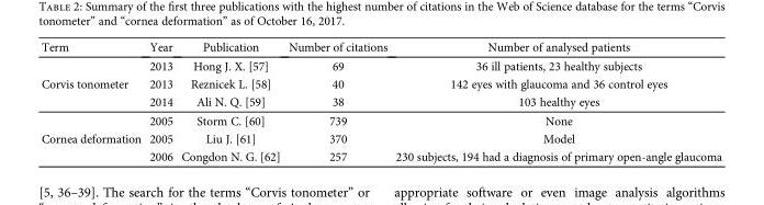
<table><thead><tr><td>Term</td><td>Year</td><td>Publication</td><td>Number of citations</td><td>Number of analysed patients</td></tr></thead><tbody><tr><td rowspan="3">Corvis tonometer</td><td>2013</td><td>Hong J. X. [57]</td><td>69</td><td>36 ill patients, 23 healthy subjects</td></tr><tr><td>2013</td><td>Reznicek L. [58]</td><td>40</td><td>142 eyes with glaucoma and 36 control eyes</td></tr><tr><td>2014</td><td>Ali N. Q. [59]</td><td>38</td><td>103 healthy eyes</td></tr><tr><td rowspan="3">Cornea deformation</td><td>2005</td><td>Storm C. [60]</td><td>739</td><td>None</td></tr><tr><td>2005</td><td>Liu J. [61]</td><td>370</td><td>Model</td></tr><tr><td>2006</td><td>Congdon N. G. [62]</td><td>257</td><td>230 subjects, 194 had a diagnosis of primary open-angle glaucoma</td></tr></tbody></table>